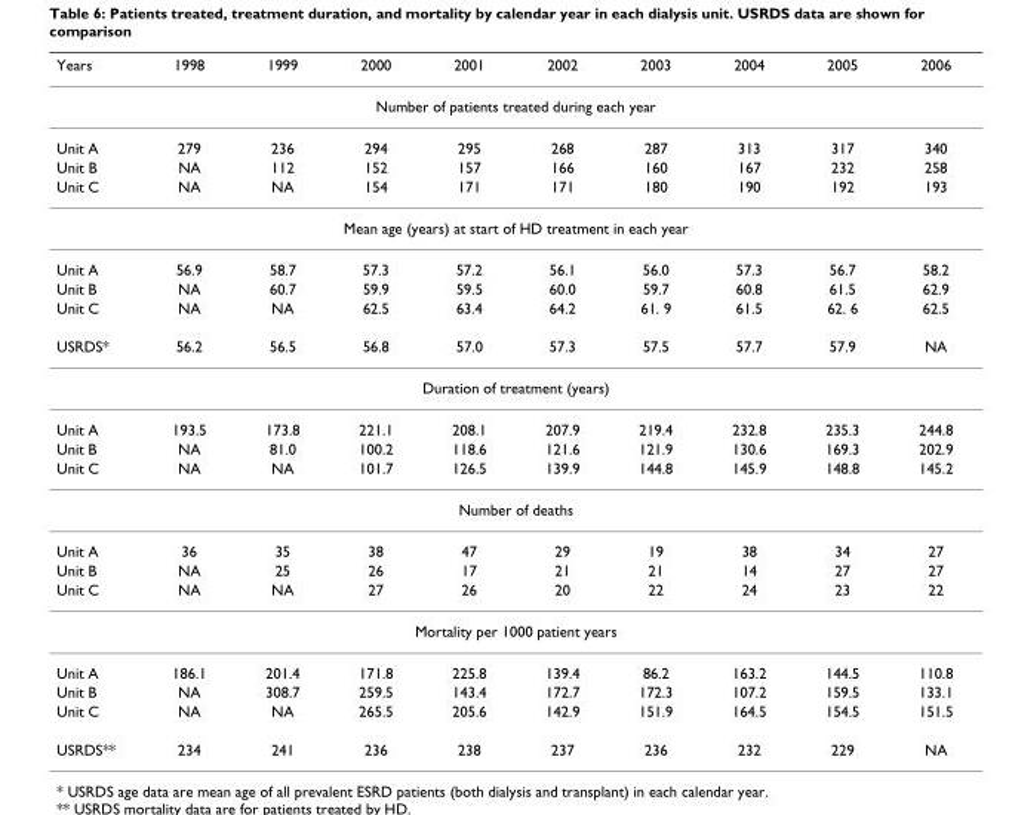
<table><thead><tr><td>Years</td><td>1998</td><td>1999</td><td>2000</td><td>2001</td><td>2002</td><td>2003</td><td>2004</td><td>2005</td><td>2006</td></tr></thead><tbody><tr><td colspan="10">Number of patients treated during each year</td></tr><tr><td>Unit A</td><td>279</td><td>236</td><td>294</td><td>295</td><td>268</td><td>287</td><td>313</td><td>317</td><td>340</td></tr><tr><td>Unit B</td><td>NA</td><td>112</td><td>152</td><td>157</td><td>166</td><td>160</td><td>167</td><td>232</td><td>258</td></tr><tr><td>Unit C</td><td>NA</td><td>NA</td><td>154</td><td>171</td><td>171</td><td>180</td><td>190</td><td>192</td><td>193</td></tr><tr><td colspan="10">Mean age (years) at start of HD treatment in each year</td></tr><tr><td>Unit A</td><td>56.9</td><td>58.7</td><td>57.3</td><td>57.2</td><td>56.1</td><td>56.0</td><td>57.3</td><td>56.7</td><td>58.2</td></tr><tr><td>Unit B</td><td>NA</td><td>60.7</td><td>59.9</td><td>59.5</td><td>60.0</td><td>59.7</td><td>60.8</td><td>61.5</td><td>62.9</td></tr><tr><td>Unit C</td><td>NA</td><td>NA</td><td>62.5</td><td>63.4</td><td>64.2</td><td>61. 9</td><td>61.5</td><td>62. 6</td><td>62.5</td></tr><tr><td>USRDS*</td><td>56.2</td><td>56.5</td><td>56.8</td><td>57.0</td><td>57.3</td><td>57.5</td><td>57.7</td><td>57.9</td><td>NA</td></tr><tr><td colspan="10">Duration of treatment (years)</td></tr><tr><td>Unit A</td><td>193.5</td><td>173.8</td><td>221.1</td><td>208.1</td><td>207.9</td><td>219.4</td><td>232.8</td><td>235.3</td><td>244.8</td></tr><tr><td>Unit B</td><td>NA</td><td>81.0</td><td>100.2</td><td>118.6</td><td>121.6</td><td>121.9</td><td>130.6</td><td>169.3</td><td>202.9</td></tr><tr><td>Unit C</td><td>NA</td><td>NA</td><td>101.7</td><td>126.5</td><td>139.9</td><td>144.8</td><td>145.9</td><td>148.8</td><td>145.2</td></tr><tr><td colspan="10">Number of deaths</td></tr><tr><td>Unit A</td><td>36</td><td>35</td><td>38</td><td>47</td><td>29</td><td>19</td><td>38</td><td>34</td><td>27</td></tr><tr><td>Unit B</td><td>NA</td><td>25</td><td>26</td><td>17</td><td>21</td><td>21</td><td>14</td><td>27</td><td>27</td></tr><tr><td>Unit C</td><td>NA</td><td>NA</td><td>27</td><td>26</td><td>20</td><td>22</td><td>24</td><td>23</td><td>22</td></tr><tr><td colspan="10">Mortality per 1000 patient years</td></tr><tr><td>Unit A</td><td>186.1</td><td>201.4</td><td>171.8</td><td>225.8</td><td>139.4</td><td>86.2</td><td>163.2</td><td>144.5</td><td>110.8</td></tr><tr><td>Unit B</td><td>NA</td><td>308.7</td><td>259.5</td><td>143.4</td><td>172.7</td><td>172.3</td><td>107.2</td><td>159.5</td><td>133.1</td></tr><tr><td>Unit C</td><td>NA</td><td>NA</td><td>265.5</td><td>205.6</td><td>142.9</td><td>151.9</td><td>164.5</td><td>154.5</td><td>151.5</td></tr><tr><td>USRDS**</td><td>234</td><td>241</td><td>236</td><td>238</td><td>237</td><td>236</td><td>232</td><td>229</td><td>NA</td></tr></tbody></table>